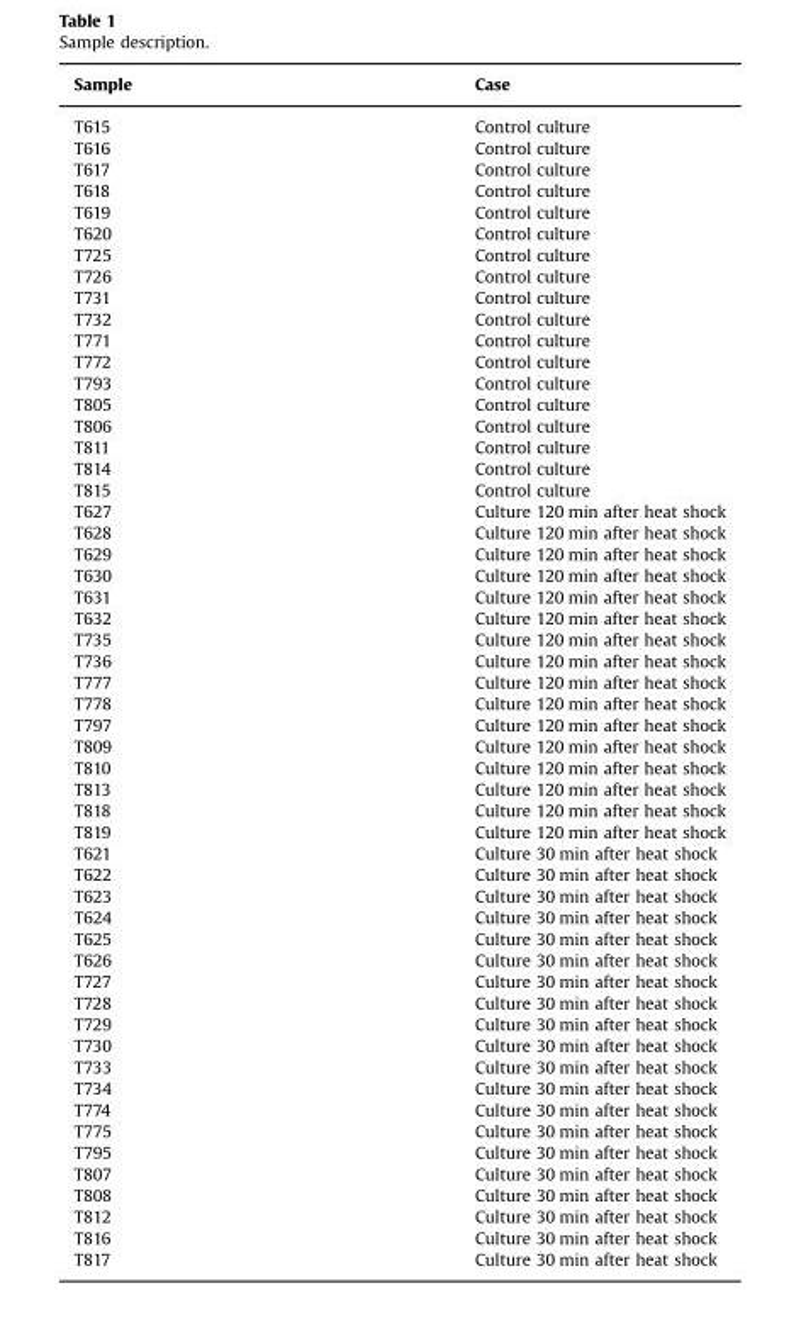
<table><thead><tr><td>Sample</td><td>Case</td></tr></thead><tbody><tr><td>T615</td><td>Control culture</td></tr><tr><td>T616</td><td>Control culture</td></tr><tr><td>T617</td><td>Control culture</td></tr><tr><td>T618</td><td>Control culture</td></tr><tr><td>T619</td><td>Control culture</td></tr><tr><td>T620</td><td>Control culture</td></tr><tr><td>T725</td><td>Control culture</td></tr><tr><td>T726</td><td>Control culture</td></tr><tr><td>T731</td><td>Control culture</td></tr><tr><td>T732</td><td>Control culture</td></tr><tr><td>T771</td><td>Control culture</td></tr><tr><td>T772</td><td>Control culture</td></tr><tr><td>T793</td><td>Control culture</td></tr><tr><td>T805</td><td>Control culture</td></tr><tr><td>T806</td><td>Control culture</td></tr><tr><td>T811</td><td>Control culture</td></tr><tr><td>T814</td><td>Control culture</td></tr><tr><td>T815</td><td>Control culture</td></tr><tr><td>T627</td><td>Culture 120 min after heat shock</td></tr><tr><td>T628</td><td>Culture 120 min after heat shock</td></tr><tr><td>T629</td><td>Culture 120 min after heat shock</td></tr><tr><td>T630</td><td>Culture 120 min after heat shock</td></tr><tr><td>T631</td><td>Culture 120 min after heat shock</td></tr><tr><td>T632</td><td>Culture 120 min after heat shock</td></tr><tr><td>T735</td><td>Culture 120 min after heat shock</td></tr><tr><td>T736</td><td>Culture 120 min after heat shock</td></tr><tr><td>T777</td><td>Culture 120 min after heat shock</td></tr><tr><td>T778</td><td>Culture 120 min after heat shock</td></tr><tr><td>T797</td><td>Culture 120 min after heat shock</td></tr><tr><td>T809</td><td>Culture 120 min after heat shock</td></tr><tr><td>T810</td><td>Culture 120 min after heat shock</td></tr><tr><td>T813</td><td>Culture 120 min after heat shock</td></tr><tr><td>T818</td><td>Culture 120 min after heat shock</td></tr><tr><td>T819</td><td>Culture 120 min after heat shock</td></tr><tr><td>T621</td><td>Culture 30 min after heat shock</td></tr><tr><td>T622</td><td>Culture 30 min after heat shock</td></tr><tr><td>T623</td><td>Culture 30 min after heat shock</td></tr><tr><td>T624</td><td>Culture 30 min after heat shock</td></tr><tr><td>T625</td><td>Culture 30 min after heat shock</td></tr><tr><td>T626</td><td>Culture 30 min after heat shock</td></tr><tr><td>T727</td><td>Culture 30 min after heat shock</td></tr><tr><td>T728</td><td>Culture 30 min after heat shock</td></tr><tr><td>T729</td><td>Culture 30 min after heat shock</td></tr><tr><td>T730</td><td>Culture 30 min after heat shock</td></tr><tr><td>T733</td><td>Culture 30 min after heat shock</td></tr><tr><td>T734</td><td>Culture 30 min after heat shock</td></tr><tr><td>T774</td><td>Culture 30 min after heat shock</td></tr><tr><td>T775</td><td>Culture 30 min after heat shock</td></tr><tr><td>T795</td><td>Culture 30 min after heat shock</td></tr><tr><td>T807</td><td>Culture 30 min after heat shock</td></tr><tr><td>T808</td><td>Culture 30 min after heat shock</td></tr><tr><td>T812</td><td>Culture 30 min after heat shock</td></tr><tr><td>T816</td><td>Culture 30 min after heat shock</td></tr><tr><td>T817</td><td>Culture 30 min after heat shock</td></tr></tbody></table>